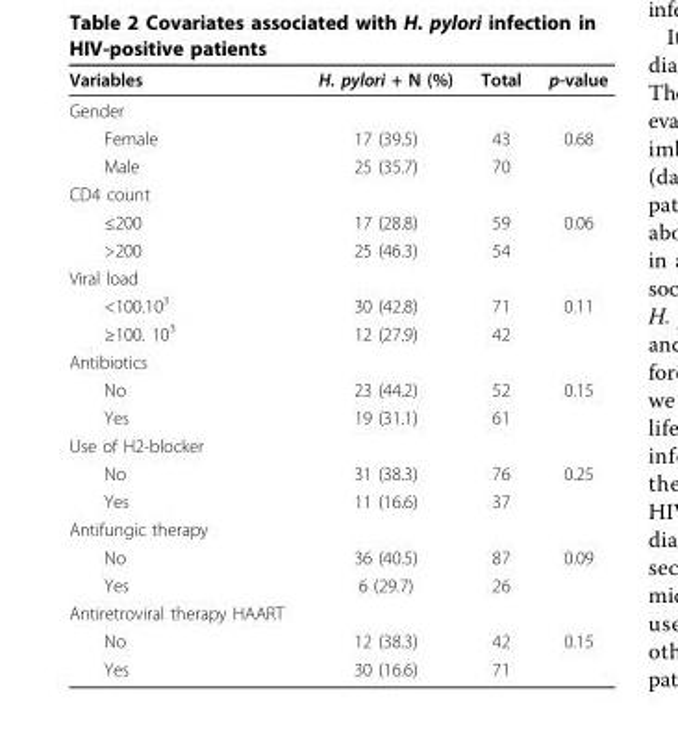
<table><thead><tr><td>Variables</td><td>H. pylori + N (%)</td><td>Total</td><td>p-value</td></tr></thead><tbody><tr><td colspan="4">Gender</td></tr><tr><td>Female</td><td>17 (39.5)</td><td>43</td><td>0.68</td></tr><tr><td>Male</td><td>25 (35.7)</td><td>70</td><td></td></tr><tr><td colspan="4">CD4 count</td></tr><tr><td>≤200</td><td>17 (28.8)</td><td>59</td><td>0.06</td></tr><tr><td>&gt;200</td><td>25 (46.3)</td><td>54</td><td></td></tr><tr><td colspan="4">Viral load</td></tr><tr><td>&lt;100.10<sup>3</sup></td><td>30 (42.8)</td><td>71</td><td>0.11</td></tr><tr><td>≥100. 10<sup>3</sup></td><td>12 (27.9)</td><td>42</td><td></td></tr><tr><td colspan="4">Antibiotics</td></tr><tr><td>No</td><td>23 (44.2)</td><td>52</td><td>0.15</td></tr><tr><td>Yes</td><td>19 (31.1)</td><td>61</td><td></td></tr><tr><td colspan="4">Use of H2-blocker</td></tr><tr><td>No</td><td>31 (38.3)</td><td>76</td><td>0.25</td></tr><tr><td>Yes</td><td>11 (16.6)</td><td>37</td><td></td></tr><tr><td colspan="4">Antifungic therapy</td></tr><tr><td>No</td><td>36 (40.5)</td><td>87</td><td>0.09</td></tr><tr><td>Yes</td><td>6 (29.7)</td><td>26</td><td></td></tr><tr><td colspan="4">Antiretroviral therapy HAART</td></tr><tr><td>No</td><td>12 (38.3)</td><td>42</td><td>0.15</td></tr><tr><td>Yes</td><td>30 (16.6)</td><td>71</td><td></td></tr></tbody></table>